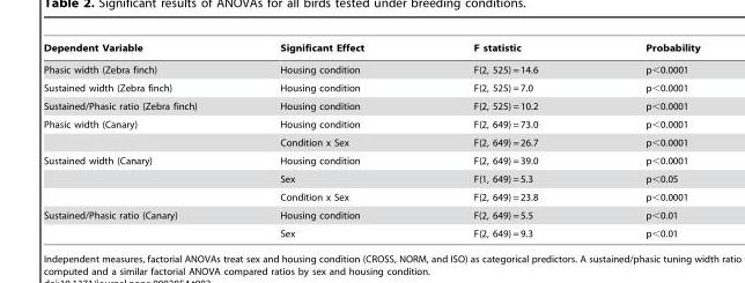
<table><thead><tr><td>Dependent Variable</td><td>Significant Effect</td><td>F statistic</td><td>Probability</td></tr></thead><tbody><tr><td>Phasic width (Zebra finch)</td><td>Housing condition</td><td>F(2, 525) = 14.6</td><td>p&lt;0.0001</td></tr><tr><td>Sustained width (Zebra finch)</td><td>Housing condition</td><td>F(2, 525) = 7.0</td><td>p&lt;0.0001</td></tr><tr><td>Sustained/Phasic ratio (Zebra finch)</td><td>Housing condition</td><td>F(2, 525) = 10.2</td><td>p&lt;0.0001</td></tr><tr><td rowspan="2">Phasic width (Canary)</td><td>Housing condition</td><td>F(2, 649) = 73.0</td><td>p&lt;0.0001</td></tr><tr><td>Condition x Sex</td><td>F(2, 649) = 26.7</td><td>p&lt;0.0001</td></tr><tr><td rowspan="3">Sustained width (Canary)</td><td>Housing condition</td><td>F(2, 649) = 39.0</td><td>p&lt;0.0001</td></tr><tr><td>Sex</td><td>F(1, 649) = 5.3</td><td>p&lt;0.05</td></tr><tr><td>Condition x Sex</td><td>F(2, 649) = 23.8</td><td>p&lt;0.0001</td></tr><tr><td rowspan="2">Sustained/Phasic ratio (Canary)</td><td>Housing condition</td><td>F(2, 649) = 5.5</td><td>p&lt;0.01</td></tr><tr><td>Sex</td><td>F(2, 649) = 9.3</td><td>p&lt;0.01</td></tr></tbody></table>